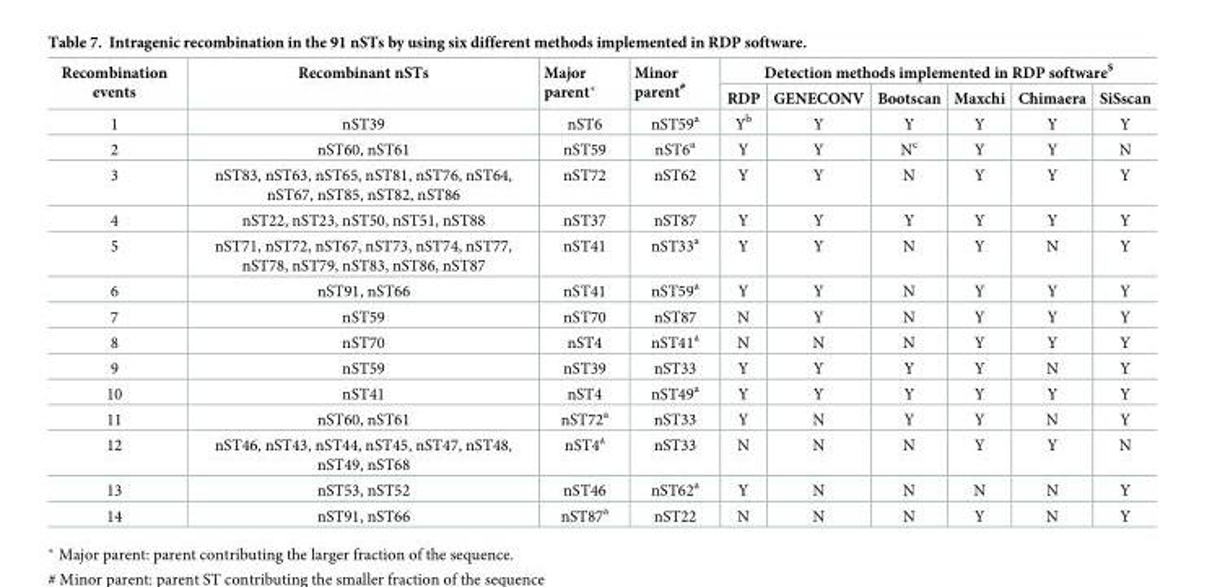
<table><thead><tr><td rowspan="2">Recombination events</td><td rowspan="2">Recombinant nSTs</td><td rowspan="2">Major parent*</td><td rowspan="2">Minor parent<sup>#</sup></td><td colspan="6">Detection methods implemented in RDP software<sup>$</sup></td></tr><tr><td>RDP</td><td>GENECONV</td><td>Bootscan</td><td>Maxchi</td><td>Chimaera</td><td>SiSscan</td></tr></thead><tbody><tr><td>1</td><td>nST39</td><td>nST6</td><td>nST59<sup>a</sup></td><td>Y<sup>b</sup></td><td>Y</td><td>Y</td><td>Y</td><td>Y</td><td>Y</td></tr><tr><td>2</td><td>nST60, nST61</td><td>nST59</td><td>nST6<sup>a</sup></td><td>Y</td><td>Y</td><td>N<sup>c</sup></td><td>Y</td><td>Y</td><td>N</td></tr><tr><td>3</td><td>nST83, nST63, nST65, nST81, nST76, nST64, nST67, nST85, nST82, nST86</td><td>nST72</td><td>nST62</td><td>Y</td><td>Y</td><td>N</td><td>Y</td><td>Y</td><td>Y</td></tr><tr><td>4</td><td>nST22, nST23, nST50, nST51, nST88</td><td>nST37</td><td>nST87</td><td>Y</td><td>Y</td><td>Y</td><td>Y</td><td>Y</td><td>Y</td></tr><tr><td>5</td><td>nST71, nST72, nST67, nST73, nST74, nST77, nST78, nST79, nST83, nST86, nST87</td><td>nST41</td><td>nST33<sup>a</sup></td><td>Y</td><td>Y</td><td>N</td><td>Y</td><td>N</td><td>Y</td></tr><tr><td>6</td><td>nST91, nST66</td><td>nST41</td><td>nST59<sup>a</sup></td><td>Y</td><td>Y</td><td>N</td><td>Y</td><td>Y</td><td>Y</td></tr><tr><td>7</td><td>nST59</td><td>nST70</td><td>nST87</td><td>N</td><td>Y</td><td>N</td><td>Y</td><td>Y</td><td>Y</td></tr><tr><td>8</td><td>nST70</td><td>nST4</td><td>nST41<sup>a</sup></td><td>N</td><td>N</td><td>N</td><td>Y</td><td>Y</td><td>Y</td></tr><tr><td>9</td><td>nST59</td><td>nST39</td><td>nST33</td><td>Y</td><td>Y</td><td>Y</td><td>Y</td><td>N</td><td>Y</td></tr><tr><td>10</td><td>nST41</td><td>nST4</td><td>nST49<sup>a</sup></td><td>Y</td><td>Y</td><td>Y</td><td>Y</td><td>Y</td><td>Y</td></tr><tr><td>11</td><td>nST60, nST61</td><td>nST72<sup>a</sup></td><td>nST33</td><td>Y</td><td>N</td><td>Y</td><td>Y</td><td>N</td><td>Y</td></tr><tr><td>12</td><td>nST46, nST43, nST44, nST45, nST47, nST48, nST49, nST68</td><td>nST4<sup>a</sup></td><td>nST33</td><td>N</td><td>N</td><td>N</td><td>Y</td><td>Y</td><td>N</td></tr><tr><td>13</td><td>nST53, nST52</td><td>nST46</td><td>nST62<sup>a</sup></td><td>Y</td><td>N</td><td>N</td><td>N</td><td>N</td><td>Y</td></tr><tr><td>14</td><td>nST91, nST66</td><td>nST87<sup>a</sup></td><td>nST22</td><td>N</td><td>N</td><td>N</td><td>Y</td><td>N</td><td>Y</td></tr></tbody></table>